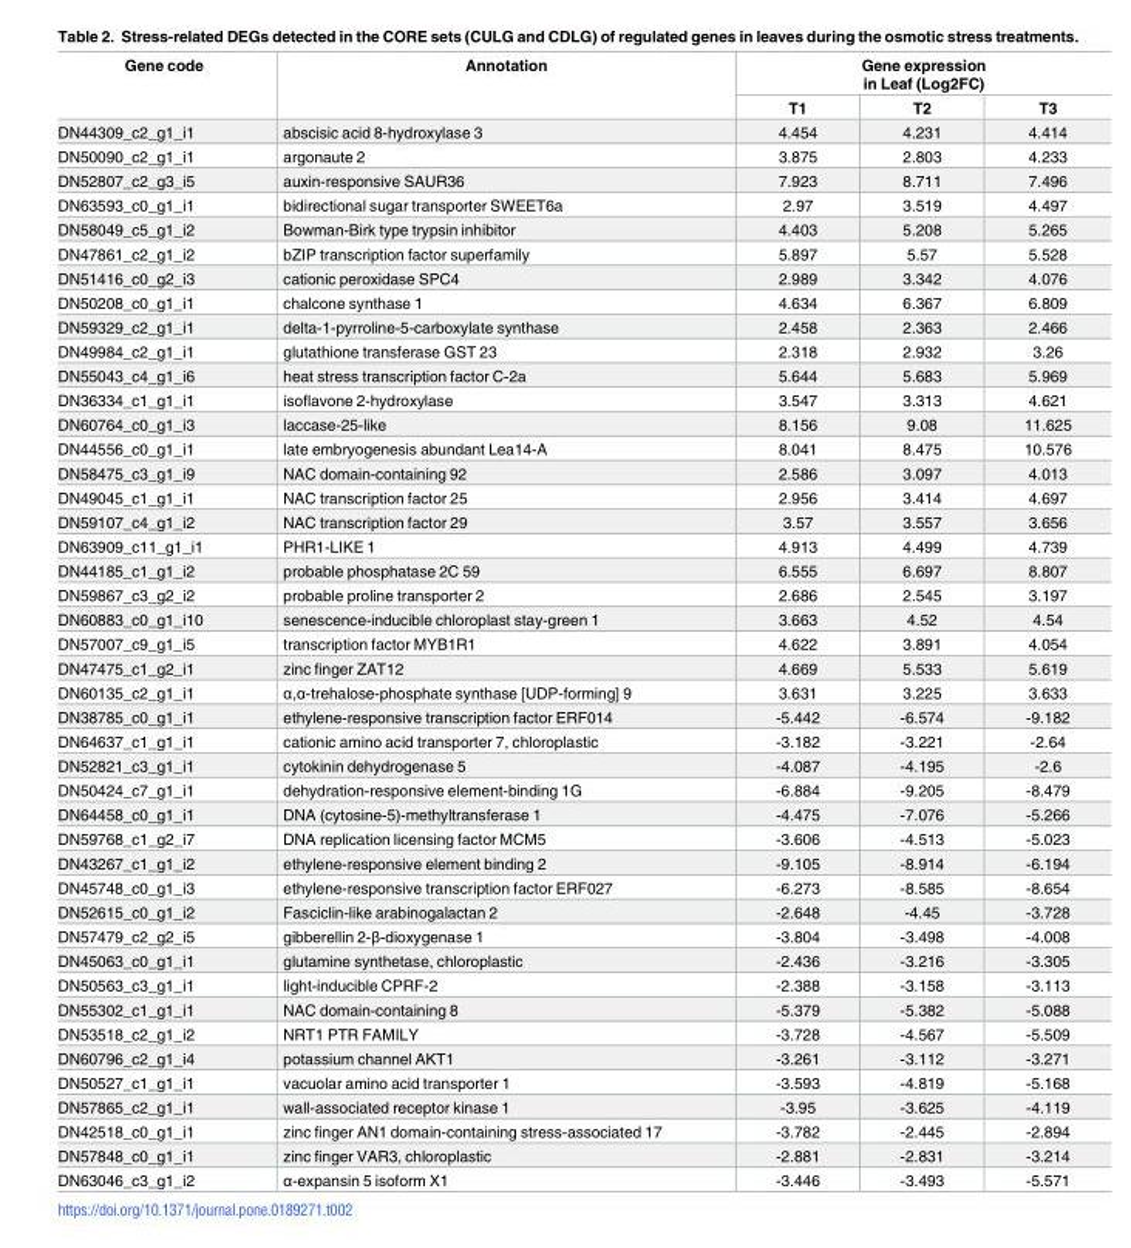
<table><thead><tr><td rowspan="2">Gene code DN44309_c2_g1_i1</td><td rowspan="2">Annotation abscisic acid 8-hydroxylase 3</td><td colspan="3">Gene expression in Leaf (Log2FC) T1 T2 T3</td></tr><tr><td>4.454</td><td>4.231</td><td>4.414</td></tr></thead><tbody><tr><td>DN50090_c2_g1_i1</td><td>argonaute 2</td><td>3.875</td><td>2.803</td><td>4.233</td></tr><tr><td>DN52807_c2_g3_i5</td><td>auxin-responsive SAUR36</td><td>7.923</td><td>8.711</td><td>7.496</td></tr><tr><td>DN63593_c0_g1_i1</td><td>bidirectional sugar transporter SWEET6a</td><td>2.97</td><td>3.519</td><td>4.497</td></tr><tr><td>DN58049_c5_g1_i2</td><td>Bowman-Birk type trypsin inhibitor</td><td>4.403</td><td>5.208</td><td>5.265</td></tr><tr><td>DN47861_c2_g1_i2</td><td>bZIP transcription factor superfamily</td><td>5.897</td><td>5.57</td><td>5.528</td></tr><tr><td>DN51416_c0_g2_i3</td><td>cationic peroxidase SPC4</td><td>2.989</td><td>3.342</td><td>4.076</td></tr><tr><td>DN50208_c0_g1_i1</td><td>chalcone synthase 1</td><td>4.634</td><td>6.367</td><td>6.809</td></tr><tr><td>DN59329_c2_g1_i1</td><td>delta-1-pyrroline-5-carboxylate synthase</td><td>2.458</td><td>2.363</td><td>2.466</td></tr><tr><td>DN49984_c2_g1_i1</td><td>glutathione transferase GST 23</td><td>2.318</td><td>2.932</td><td>3.26</td></tr><tr><td>DN55043_c4_g1_i6</td><td>heat stress transcription factor C-2a</td><td>5.644</td><td>5.683</td><td>5.969</td></tr><tr><td>DN36334_c1_g1_i1</td><td>isoflavone 2-hydroxylase</td><td>3.547</td><td>3.313</td><td>4.621</td></tr><tr><td>DN60764_c0_g1_i3</td><td>laccase-25-like</td><td>8.156</td><td>9.08</td><td>11.625</td></tr><tr><td>DN44556_c0_g1_i1</td><td>late embryogenesis abundant Lea14-A</td><td>8.041</td><td>8.475</td><td>10.576</td></tr><tr><td>DN58475_c3_g1_i9</td><td>NAC domain-containing 92</td><td>2.586</td><td>3.097</td><td>4.013</td></tr><tr><td>DN49045_c1_g1_i1</td><td>NAC transcription factor 25</td><td>2.956</td><td>3.414</td><td>4.697</td></tr><tr><td>DN59107_c4_g1_i2</td><td>NAC transcription factor 29</td><td>3.57</td><td>3.557</td><td>3.656</td></tr><tr><td>DN63909_c11_g1_i1</td><td>PHR1-LIKE 1</td><td>4.913</td><td>4.499</td><td>4.739</td></tr><tr><td>DN44185_c1_g1_i2</td><td>probable phosphatase 2C 59</td><td>6.555</td><td>6.697</td><td>8.807</td></tr><tr><td>DN59867_c3_g2_i2</td><td>probable proline transporter 2</td><td>2.686</td><td>2.545</td><td>3.197</td></tr><tr><td>DN60883_c0_g1_i10</td><td>senescence-inducible chloroplast stay-green 1</td><td>3.663</td><td>4.52</td><td>4.54</td></tr><tr><td>DN57007_c9_g1_i5</td><td>transcription factor MYB1R1</td><td>4.622</td><td>3.891</td><td>4.054</td></tr><tr><td>DN47475_c1_g2_i1</td><td>zinc finger ZAT12</td><td>4.669</td><td>5.533</td><td>5.619</td></tr><tr><td>DN60135_c2_g1_i1</td><td>α,α-trehalose-phosphate synthase [UDP-forming] 9</td><td>3.631</td><td>3.225</td><td>3.633</td></tr><tr><td>DN38785_c0_g1_i1</td><td>ethylene-responsive transcription factor ERF014</td><td>-5.442</td><td>-6.574</td><td>-9.182</td></tr><tr><td>DN64637_c1_g1_i1</td><td>cationic amino acid transporter 7, chloroplastic</td><td>-3.182</td><td>-3.221</td><td>-2.64</td></tr><tr><td>DN52821_c3_g1_i1</td><td>cytokinin dehydrogenase 5</td><td>-4.087</td><td>-4.195</td><td>-2.6</td></tr><tr><td>DN50424_c7_g1_i1</td><td>dehydration-responsive element-binding 1G</td><td>-6.884</td><td>-9.205</td><td>-8.479</td></tr><tr><td>DN64458_c0_g1_i1</td><td>DNA (cytosine-5)-methyltransferase 1</td><td>-4.475</td><td>-7.076</td><td>-5.266</td></tr><tr><td>DN59768_c1_g2_i7</td><td>DNA replication licensing factor MCM5</td><td>-3.606</td><td>-4.513</td><td>-5.023</td></tr><tr><td>DN43267_c1_g1_i2</td><td>ethylene-responsive element binding 2</td><td>-9.105</td><td>-8.914</td><td>-6.194</td></tr><tr><td>DN45748_c0_g1_i3</td><td>ethylene-responsive transcription factor ERF027</td><td>-6.273</td><td>-8.585</td><td>-8.654</td></tr><tr><td>DN52615_c0_g1_i2</td><td>Fasciclin-like arabinogalactan 2</td><td>-2.648</td><td>-4.45</td><td>-3.728</td></tr><tr><td>DN57479_c2_g2_i5</td><td>gibberellin 2-β-dioxygenase 1</td><td>-3.804</td><td>-3.498</td><td>-4.008</td></tr><tr><td>DN45063_c0_g1_i1</td><td>glutamine synthetase, chloroplastic</td><td>-2.436</td><td>-3.216</td><td>-3.305</td></tr><tr><td>DN50563_c3_g1_i1</td><td>light-inducible CPRF-2</td><td>-2.388</td><td>-3.158</td><td>-3.113</td></tr><tr><td>DN55302_c1_g1_i1</td><td>NAC domain-containing 8</td><td>-5.379</td><td>-5.382</td><td>-5.088</td></tr><tr><td>DN53518_c2_g1_i2</td><td>NRT1 PTR FAMILY</td><td>-3.728</td><td>-4.567</td><td>-5.509</td></tr><tr><td>DN60796_c2_g1_i4</td><td>potassium channel AKT1</td><td>-3.261</td><td>-3.112</td><td>-3.271</td></tr><tr><td>DN50527_c1_g1_i1</td><td>vacuolar amino acid transporter 1</td><td>-3.593</td><td>-4.819</td><td>-5.168</td></tr><tr><td>DN57865_c2_g1_i1</td><td>wall-associated receptor kinase 1</td><td>-3.95</td><td>-3.625</td><td>-4.119</td></tr><tr><td>DN42518_c0_g1_i1</td><td>zinc finger AN1 domain-containing stress-associated 17</td><td>-3.782</td><td>-2.445</td><td>-2.894</td></tr><tr><td>DN57848_c0_g1_i1</td><td>zinc finger VAR3, chloroplastic</td><td>-2.881</td><td>-2.831</td><td>-3.214</td></tr><tr><td>DN63046_c3_g1_i2</td><td>α-expansin 5 isoform X1</td><td>-3.446</td><td>-3.493</td><td>-5.571</td></tr></tbody></table>